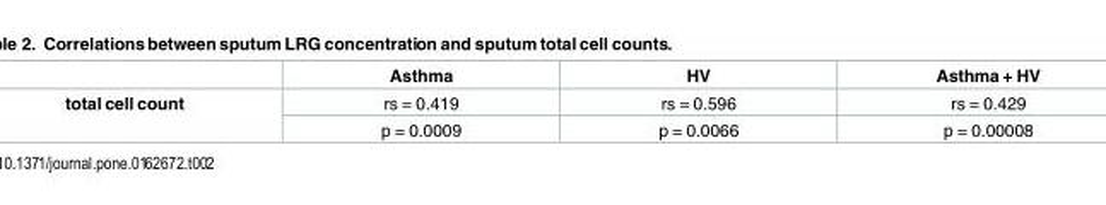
<table><thead><tr><td></td><td>Asthma</td><td>HV</td><td>Asthma + HV</td></tr></thead><tbody><tr><td rowspan="2">total cell count</td><td>rs = 0.419</td><td>rs = 0.596</td><td>rs = 0.429</td></tr><tr><td>p = 0.0009</td><td>p = 0.0066</td><td>p = 0.00008</td></tr></tbody></table>